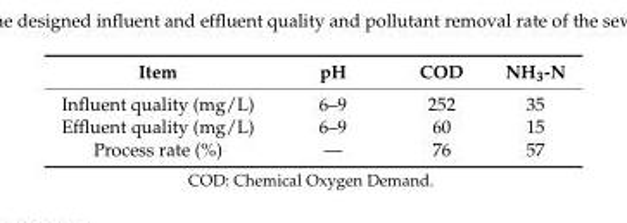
<table><thead><tr><td>Item</td><td>pH</td><td>COD</td><td>NH<sub>3</sub>-N</td></tr></thead><tbody><tr><td>Influent quality (mg/L)</td><td>6–9</td><td>252</td><td>35</td></tr><tr><td>Effluent quality (mg/L)</td><td>6–9</td><td>60</td><td>15</td></tr><tr><td>Process rate (%)</td><td>—</td><td>76</td><td>57</td></tr></tbody></table>